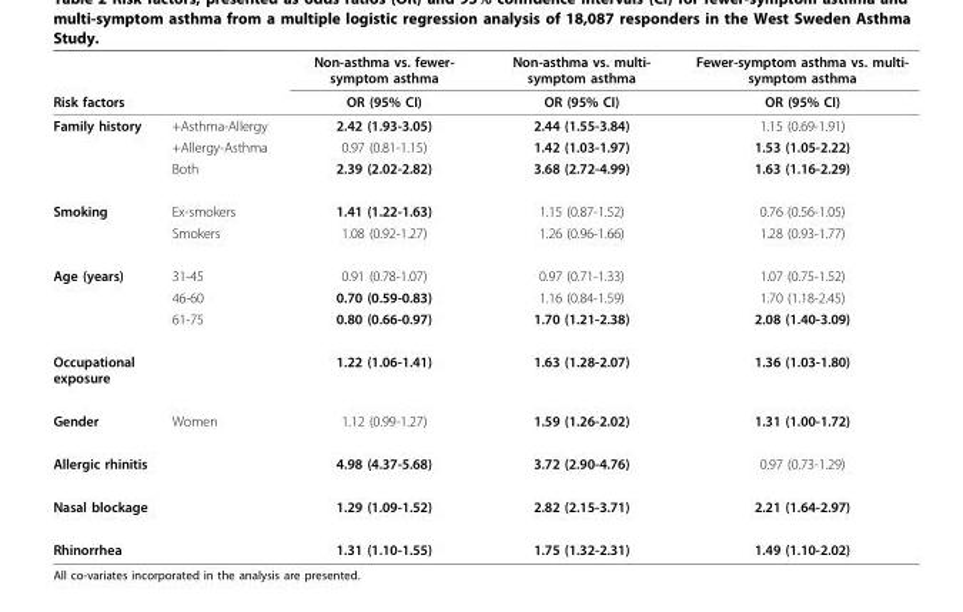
<table><thead><tr><td rowspan="2">Risk factors</td><td rowspan="2"></td><td rowspan="2">Non-asthma vs. fewer- symptom asthma OR (95% CI)</td><td rowspan="2">Non-asthma vs. multi- symptom asthma OR (95% CI)</td><td rowspan="2">Fewer-symptom asthma vs. multi- symptom asthma OR (95% CI)</td></tr><tr></tr></thead><tbody><tr><td rowspan="3">Family history</td><td>+Asthma-Allergy</td><td>2.42 (1.93-3.05)</td><td>2.44 (1.55-3.84)</td><td>1.15 (0.69-1.91)</td></tr><tr><td>+Allergy-Asthma</td><td>0.97 (0.81-1.15)</td><td>1.42 (1.03-1.97)</td><td>1.53 (1.05-2.22)</td></tr><tr><td>Both</td><td>2.39 (2.02-2.82)</td><td>3.68 (2.72-4.99)</td><td>1.63 (1.16-2.29)</td></tr><tr><td rowspan="2">Smoking</td><td>Ex-smokers</td><td>1.41 (1.22-1.63)</td><td>1.15 (0.87-1.52)</td><td>0.76 (0.56-1.05)</td></tr><tr><td>Smokers</td><td>1.08 (0.92-1.27)</td><td>1.26 (0.96-1.66)</td><td>1.28 (0.93-1.77)</td></tr><tr><td rowspan="3">Age (years)</td><td>31-45</td><td>0.91 (0.78-1.07)</td><td>0.97 (0.71-1.33)</td><td>1.07 (0.75-1.52)</td></tr><tr><td>46-60</td><td>0.70 (0.59-0.83)</td><td>1.16 (0.84-1.59)</td><td>1.70 (1.18-2.45)</td></tr><tr><td>61-75</td><td>0.80 (0.66-0.97)</td><td>1.70 (1.21-2.38)</td><td>2.08 (1.40-3.09)</td></tr><tr><td>Occupational exposure</td><td></td><td>1.22 (1.06-1.41)</td><td>1.63 (1.28-2.07)</td><td>1.36 (1.03-1.80)</td></tr><tr><td>Gender</td><td>Women</td><td>1.12 (0.99-1.27)</td><td>1.59 (1.26-2.02)</td><td>1.31 (1.00-1.72)</td></tr><tr><td>Allergic rhinitis</td><td></td><td>4.98 (4.37-5.68)</td><td>3.72 (2.90-4.76)</td><td>0.97 (0.73-1.29)</td></tr><tr><td>Nasal blockage</td><td></td><td>1.29 (1.09-1.52)</td><td>2.82 (2.15-3.71)</td><td>2.21 (1.64-2.97)</td></tr><tr><td>Rhinorrhea</td><td></td><td>1.31 (1.10-1.55)</td><td>1.75 (1.32-2.31)</td><td>1.49 (1.10-2.02)</td></tr></tbody></table>